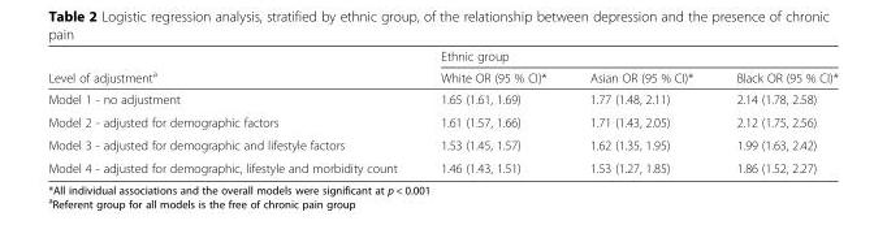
<table><thead><tr><td rowspan="2">Level of adjustment<sup>a</sup></td><td colspan="3">Ethnic group</td></tr><tr><td>White OR (95 % CI)*</td><td>Asian OR (95 % CI)*</td><td>Black OR (95 % CI)*</td></tr></thead><tbody><tr><td>Model 1 - no adjustment</td><td>1.65 (1.61, 1.69)</td><td>1.77 (1.48, 2.11)</td><td>2.14 (1.78, 2.58)</td></tr><tr><td>Model 2 - adjusted for demographic factors</td><td>1.61 (1.57, 1.66)</td><td>1.71 (1.43, 2.05)</td><td>2.12 (1.75, 2.56)</td></tr><tr><td>Model 3 - adjusted for demographic and lifestyle factors</td><td>1.53 (1.45, 1.57)</td><td>1.62 (1.35, 1.95)</td><td>1.99 (1.63, 2.42)</td></tr><tr><td>Model 4 - adjusted for demographic, lifestyle and morbidity count</td><td>1.46 (1.43, 1.51)</td><td>1.53 (1.27, 1.85)</td><td>1.86 (1.52, 2.27)</td></tr></tbody></table>